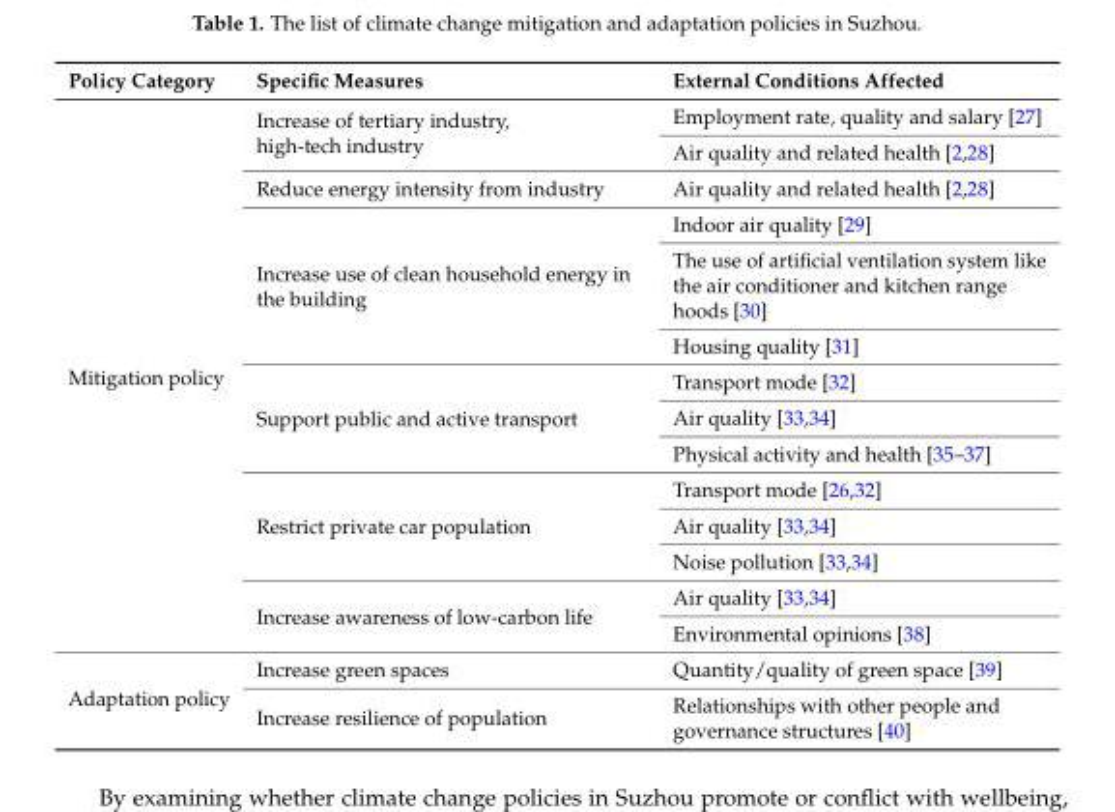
<table><thead><tr><td>Policy Category</td><td>Specific Measures</td><td>External Conditions Affected</td></tr></thead><tbody><tr><td rowspan="14">Mitigation policy</td><td rowspan="2">Increase of tertiary industry, high-tech industry</td><td>Employment rate, quality and salary [27]</td></tr><tr><td>Air quality and related health [2,28]</td></tr><tr><td>Reduce energy intensity from industry</td><td>Air quality and related health [2,28]</td></tr><tr><td rowspan="3">Increase use of clean household energy in the building</td><td>Indoor air quality [29]</td></tr><tr><td>The use of artificial ventilation system like the air conditioner and kitchen range hoods [30]</td></tr><tr><td>Housing quality [31]</td></tr><tr><td rowspan="3">Support public and active transport</td><td>Transport mode [32]</td></tr><tr><td>Air quality [33,34]</td></tr><tr><td>Physical activity and health [35–37]</td></tr><tr><td rowspan="3">Restrict private car population</td><td>Transport mode [26,32]</td></tr><tr><td>Air quality [33,34]</td></tr><tr><td>Noise pollution [33,34]</td></tr><tr><td rowspan="2">Increase awareness of low-carbon life</td><td>Air quality [33,34]</td></tr><tr><td>Environmental opinions [38]</td></tr><tr><td rowspan="2">Adaptation policy</td><td>Increase green spaces</td><td>Quantity/quality of green space [39]</td></tr><tr><td>Increase resilience of population</td><td>Relationships with other people and governance structures [40]</td></tr></tbody></table>